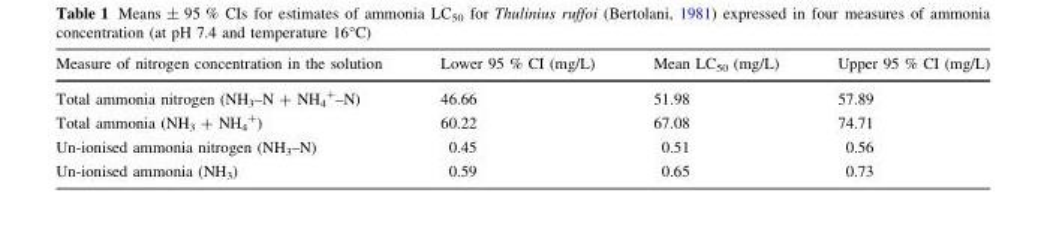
<table><thead><tr><td>Measure of nitrogen concentration in the solution</td><td>Lower 95 % CI (mg/L)</td><td>Mean LC<sub>50</sub> (mg/L)</td><td>Upper 95 % CI (mg/L)</td></tr></thead><tbody><tr><td>Total ammonia nitrogen (NH<sub>3</sub>–N + NH<sub>4</sub> <sup>+</sup>–N)</td><td>46.66</td><td>51.98</td><td>57.89</td></tr><tr><td>Total ammonia (NH<sub>3</sub> + NH<sub>4</sub> <sup>+</sup>)</td><td>60.22</td><td>67.08</td><td>74.71</td></tr><tr><td>Un-ionised ammonia nitrogen (NH<sub>3</sub>–N)</td><td>0.45</td><td>0.51</td><td>0.56</td></tr><tr><td>Un-ionised ammonia (NH<sub>3</sub>)</td><td>0.59</td><td>0.65</td><td>0.73</td></tr></tbody></table>